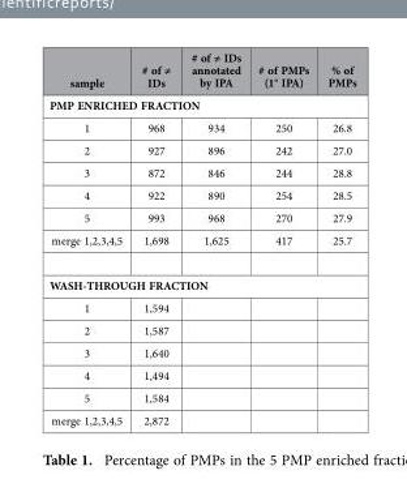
<table><thead><tr><td>sample</td><td># of ≠ IDs</td><td># of ≠ IDs annotated by IPA</td><td># of PMPs (1° IPA)</td><td>% of PMPs</td></tr></thead><tbody><tr><td colspan="5">PMP ENRICHED FRACTION</td></tr><tr><td>1</td><td>968</td><td>934</td><td>250</td><td>26.8</td></tr><tr><td>2</td><td>927</td><td>896</td><td>242</td><td>27.0</td></tr><tr><td>3</td><td>872</td><td>846</td><td>244</td><td>28.8</td></tr><tr><td>4</td><td>922</td><td>890</td><td>254</td><td>28.5</td></tr><tr><td>5</td><td>993</td><td>968</td><td>270</td><td>27.9</td></tr><tr><td>merge 1,2,3,4,5</td><td>1,698</td><td>1,625</td><td>417</td><td>25.7</td></tr><tr><td colspan="5">WASH-THROUGH FRACTION</td></tr><tr><td>1</td><td>1,594</td><td></td><td></td><td></td></tr><tr><td>2</td><td>1,587</td><td></td><td></td><td></td></tr><tr><td>3</td><td>1,640</td><td></td><td></td><td></td></tr><tr><td>4</td><td>1,494</td><td></td><td></td><td></td></tr><tr><td>5</td><td>1,584</td><td></td><td></td><td></td></tr><tr><td>merge 1,2,3,4,5</td><td>2,872</td><td></td><td></td><td></td></tr></tbody></table>